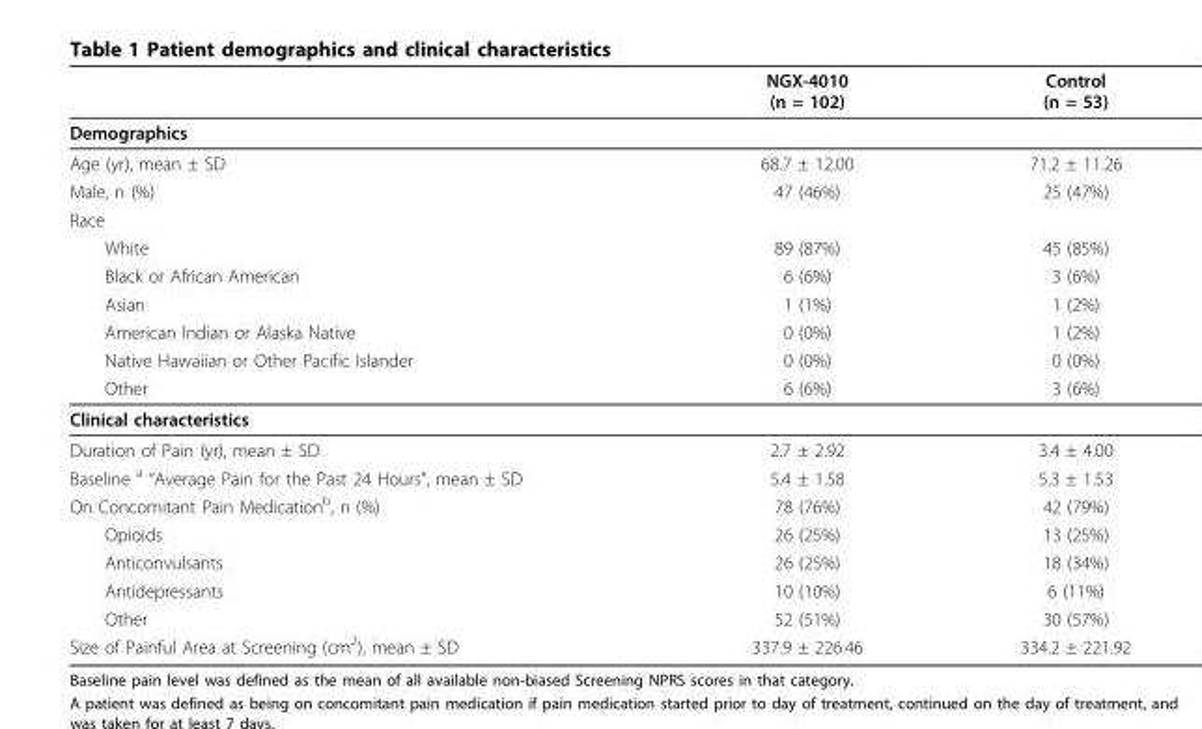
<table><thead><tr><td></td><td>NGX-4010 (n = 102)</td><td>Control (n = 53)</td></tr></thead><tbody><tr><td colspan="3">Demographics</td></tr><tr><td>Age (yr), mean ± SD</td><td>68.7 ± 12.00</td><td>71.2 ± 11.26</td></tr><tr><td>Male, n (%)</td><td>47 (46%)</td><td>25 (47%)</td></tr><tr><td colspan="3">Race</td></tr><tr><td>White</td><td>89 (87%)</td><td>45 (85%)</td></tr><tr><td>Black or African American</td><td>6 (6%)</td><td>3 (6%)</td></tr><tr><td>Asian</td><td>1 (1%)</td><td>1 (2%)</td></tr><tr><td>American Indian or Alaska Native</td><td>0 (0%)</td><td>1 (2%)</td></tr><tr><td>Native Hawaiian or Other Pacific Islander</td><td>0 (0%)</td><td>0 (0%)</td></tr><tr><td>Other</td><td>6 (6%)</td><td>3 (6%)</td></tr><tr><td colspan="3">Clinical characteristics</td></tr><tr><td>Duration of Pain (yr), mean ± SD</td><td>2.7 ± 2.92</td><td>3.4 ± 4.00</td></tr><tr><td>Baseline a “Average Pain for the Past 24 Hours”, mean ± SD</td><td>5.4 ± 1.58</td><td>5.3 ± 1.53</td></tr><tr><td>On Concomitant Pain Medication<sup>b</sup>, n (%)</td><td>78 (76%)</td><td>42 (79%)</td></tr><tr><td>Opioids</td><td>26 (25%)</td><td>13 (25%)</td></tr><tr><td>Anticonvulsants</td><td>26 (25%)</td><td>18 (34%)</td></tr><tr><td>Antidepressants</td><td>10 (10%)</td><td>6 (11%)</td></tr><tr><td>Other</td><td>52 (51%)</td><td>30 (57%)</td></tr><tr><td>Size of Painful Area at Screening (cm<sup>2</sup>), mean ± SD</td><td>337.9 ± 226.46</td><td>334.2 ± 221.92</td></tr></tbody></table>